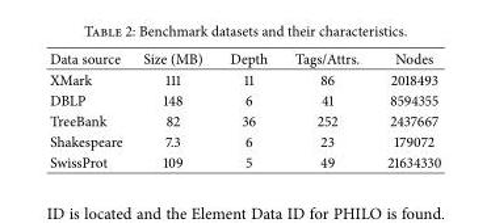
<table><thead><tr><td>Data source</td><td>Size (MB)</td><td>Depth</td><td>Tags/Attrs.</td><td>Nodes</td></tr></thead><tbody><tr><td>XMark</td><td>111</td><td>11</td><td>86</td><td>2018493</td></tr><tr><td>DBLP</td><td>148</td><td>6</td><td>41</td><td>8594355</td></tr><tr><td>TreeBank</td><td>82</td><td>36</td><td>252</td><td>2437667</td></tr><tr><td>Shakespeare</td><td>7.3</td><td>6</td><td>23</td><td>179072</td></tr><tr><td>SwissProt</td><td>109</td><td>5</td><td>49</td><td>21634330</td></tr></tbody></table>